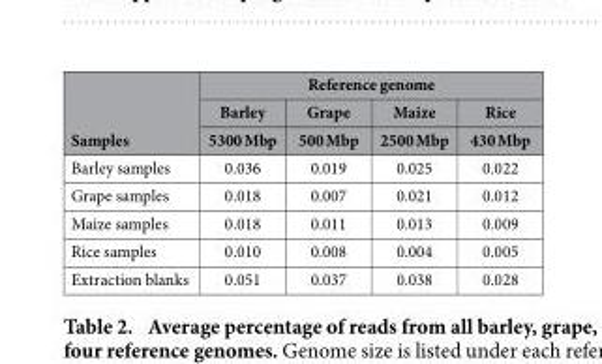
<table><thead><tr><td rowspan="3">Samples</td><td colspan="4">Reference genome</td></tr><tr><td rowspan="2">Barley 5300 Mbp</td><td rowspan="2">Grape 500 Mbp</td><td rowspan="2">Maize 2500 Mbp</td><td rowspan="2">Rice 430 Mbp</td></tr><tr></tr></thead><tbody><tr><td>Barley samples</td><td>0.036</td><td>0.019</td><td>0.025</td><td>0.022</td></tr><tr><td>Grape samples</td><td>0.018</td><td>0.007</td><td>0.021</td><td>0.012</td></tr><tr><td>Maize samples</td><td>0.018</td><td>0.011</td><td>0.013</td><td>0.009</td></tr><tr><td>Rice samples</td><td>0.010</td><td>0.008</td><td>0.004</td><td>0.005</td></tr><tr><td>Extraction blanks</td><td>0.051</td><td>0.037</td><td>0.038</td><td>0.028</td></tr></tbody></table>